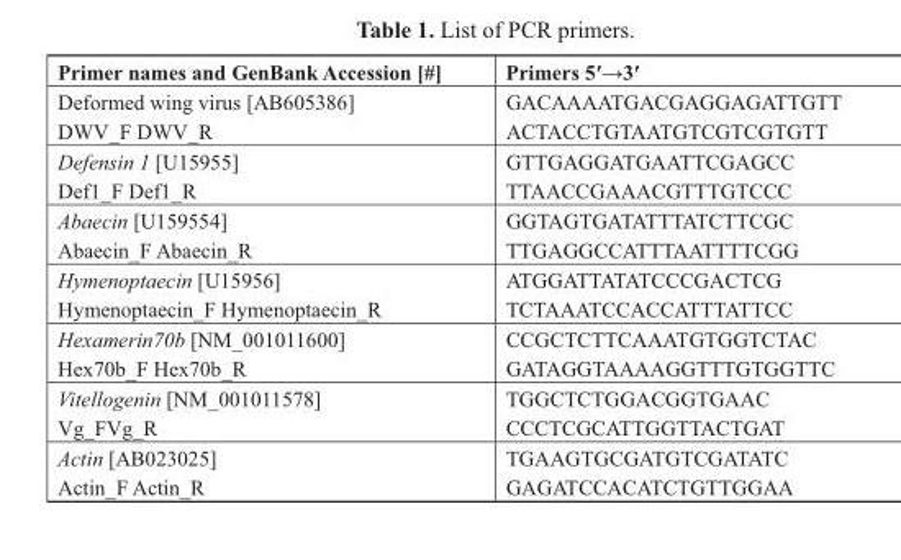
<table><thead><tr><td>Primer names and GenBank Accession [#]</td><td>Primers 5′→3′</td></tr></thead><tbody><tr><td>Deformed wing virus [AB605386] DWV_F DWV_R</td><td>GACAAAATGACGAGGAGATTGTT ACTACCTGTAATGTCGTCGTGTT</td></tr><tr><td>Defensin 1 [U15955] Def1_F Def1_R</td><td>GTTGAGGATGAATTCGAGCC TTAACCGAAACGTTTGTCCC</td></tr><tr><td>Abaecin [U159554] Abaecin_F Abaecin_R</td><td>GGTAGTGATATTTATCTTCGC TTGAGGCCATTTAATTTTCGG</td></tr><tr><td>Hymenoptaecin [U15956] Hymenoptaecin_F Hymenoptaecin_R</td><td>ATGGATTATATCCCGACTCG TCTAAATCCACCATTTATTCC</td></tr><tr><td>Hexamerin70b [NM_001011600] Hex70b_F Hex70b_R</td><td>CCGCTCTTCAAATGTGGTCTAC GATAGGTAAAAGGTTTGTGGTTC</td></tr><tr><td>Vitellogenin [NM_001011578] Vg_FVg_R</td><td>TGGCTCTGGACGGTGAAC CCCTCGCATTGGTTACTGAT</td></tr><tr><td>Actin [AB023025] Actin_F Actin_R</td><td>TGAAGTGCGATGTCGATATC GAGATCCACATCTGTTGGAA</td></tr></tbody></table>